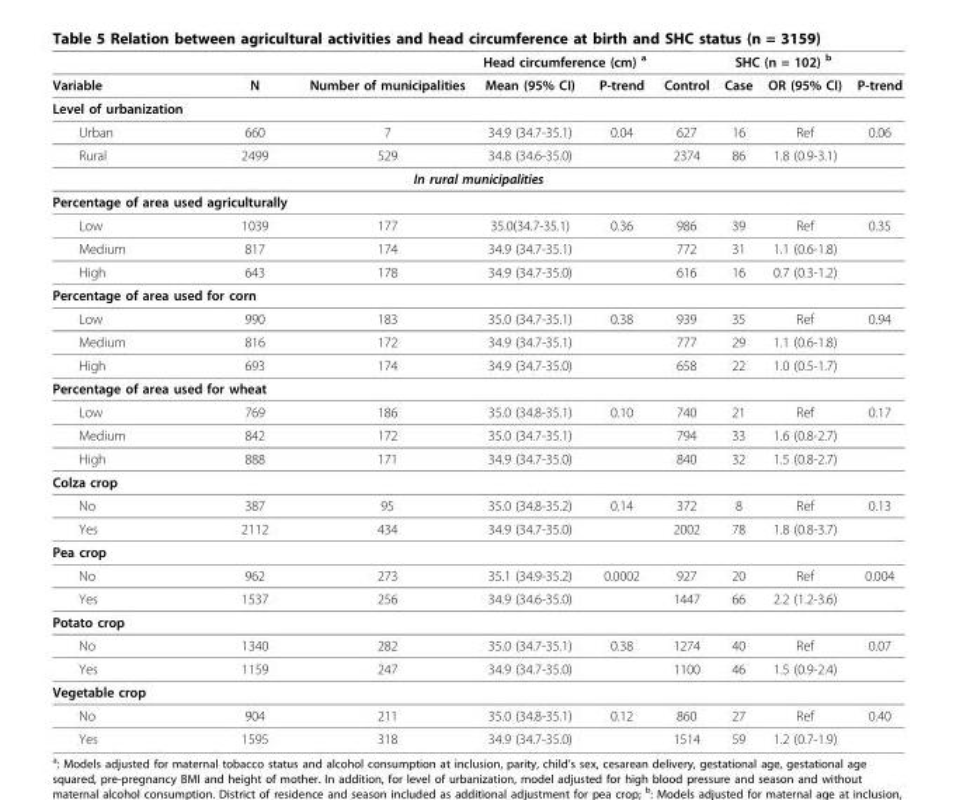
<table><thead><tr><td rowspan="2">Variable</td><td rowspan="2">N</td><td rowspan="2">Number of municipalities</td><td colspan="2">Head circumference (cm) <sup>a</sup></td><td colspan="4">SHC (n = 102) <sup>b</sup></td></tr><tr><td>Mean (95% CI)</td><td>P-trend</td><td>Control</td><td>Case</td><td>OR (95% CI)</td><td>P-trend</td></tr></thead><tbody><tr><td colspan="9">Level of urbanization</td></tr><tr><td>Urban</td><td>660</td><td>7</td><td>34.9 (34.7-35.1)</td><td>0.04</td><td>627</td><td>16</td><td>Ref</td><td>0.06</td></tr><tr><td>Rural</td><td>2499</td><td>529</td><td>34.8 (34.6-35.0)</td><td></td><td>2374</td><td>86</td><td>1.8 (0.9-3.1)</td><td></td></tr><tr><td colspan="9">In rural municipalities</td></tr><tr><td colspan="9">Percentage of area used agriculturally</td></tr><tr><td>Low</td><td>1039</td><td>177</td><td>35.0(34.7-35.1)</td><td>0.36</td><td>986</td><td>39</td><td>Ref</td><td>0.35</td></tr><tr><td>Medium</td><td>817</td><td>174</td><td>34.9 (34.7-35.1)</td><td></td><td>772</td><td>31</td><td>1.1 (0.6-1.8)</td><td></td></tr><tr><td>High</td><td>643</td><td>178</td><td>34.9 (34.7-35.0)</td><td></td><td>616</td><td>16</td><td>0.7 (0.3-1.2)</td><td></td></tr><tr><td colspan="9">Percentage of area used for corn</td></tr><tr><td>Low</td><td>990</td><td>183</td><td>35.0 (34.7-35.1)</td><td>0.38</td><td>939</td><td>35</td><td>Ref</td><td>0.94</td></tr><tr><td>Medium</td><td>816</td><td>172</td><td>34.9 (34.7-35.1)</td><td></td><td>777</td><td>29</td><td>1.1 (0.6-1.8)</td><td></td></tr><tr><td>High</td><td>693</td><td>174</td><td>34.9 (34.7-35.0)</td><td></td><td>658</td><td>22</td><td>1.0 (0.5-1.7)</td><td></td></tr><tr><td colspan="9">Percentage of area used for wheat</td></tr><tr><td>Low</td><td>769</td><td>186</td><td>35.0 (34.8-35.1)</td><td>0.10</td><td>740</td><td>21</td><td>Ref</td><td>0.17</td></tr><tr><td>Medium</td><td>842</td><td>172</td><td>35.0 (34.7-35.1)</td><td></td><td>794</td><td>33</td><td>1.6 (0.8-2.7)</td><td></td></tr><tr><td>High</td><td>888</td><td>171</td><td>34.9 (34.7-35.0)</td><td></td><td>840</td><td>32</td><td>1.5 (0.8-2.7)</td><td></td></tr><tr><td colspan="9">Colza crop</td></tr><tr><td>No</td><td>387</td><td>95</td><td>35.0 (34.8-35.2)</td><td>0.14</td><td>372</td><td>8</td><td>Ref</td><td>0.13</td></tr><tr><td>Yes</td><td>2112</td><td>434</td><td>34.9 (34.7-35.0)</td><td></td><td>2002</td><td>78</td><td>1.8 (0.8-3.7)</td><td></td></tr><tr><td colspan="9">Pea crop</td></tr><tr><td>No</td><td>962</td><td>273</td><td>35.1 (34.9-35.2)</td><td>0.0002</td><td>927</td><td>20</td><td>Ref</td><td>0.004</td></tr><tr><td>Yes</td><td>1537</td><td>256</td><td>34.9 (34.6-35.0)</td><td></td><td>1447</td><td>66</td><td>2.2 (1.2-3.6)</td><td></td></tr><tr><td colspan="9">Potato crop</td></tr><tr><td>No</td><td>1340</td><td>282</td><td>35.0 (34.7-35.1)</td><td>0.38</td><td>1274</td><td>40</td><td>Ref</td><td>0.07</td></tr><tr><td>Yes</td><td>1159</td><td>247</td><td>34.9 (34.7-35.0)</td><td></td><td>1100</td><td>46</td><td>1.5 (0.9-2.4)</td><td></td></tr><tr><td colspan="9">Vegetable crop</td></tr><tr><td>No</td><td>904</td><td>211</td><td>35.0 (34.8-35.1)</td><td>0.12</td><td>860</td><td>27</td><td>Ref</td><td>0.40</td></tr><tr><td>Yes</td><td>1595</td><td>318</td><td>34.9 (34.7-35.0)</td><td></td><td>1514</td><td>59</td><td>1.2 (0.7-1.9)</td><td></td></tr></tbody></table>